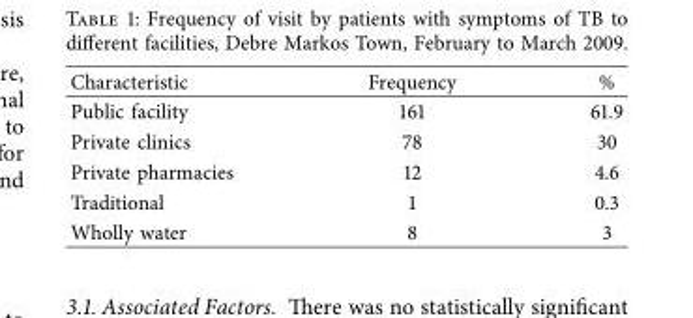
<table><thead><tr><td>Characteristic</td><td>Frequency</td><td>%</td></tr></thead><tbody><tr><td>Public facility</td><td>161</td><td>61.9</td></tr><tr><td>Private clinics</td><td>78</td><td>30</td></tr><tr><td>Private pharmacies</td><td>12</td><td>4.6</td></tr><tr><td>Traditional</td><td>1</td><td>0.3</td></tr><tr><td>Wholly water</td><td>8</td><td>3</td></tr></tbody></table>